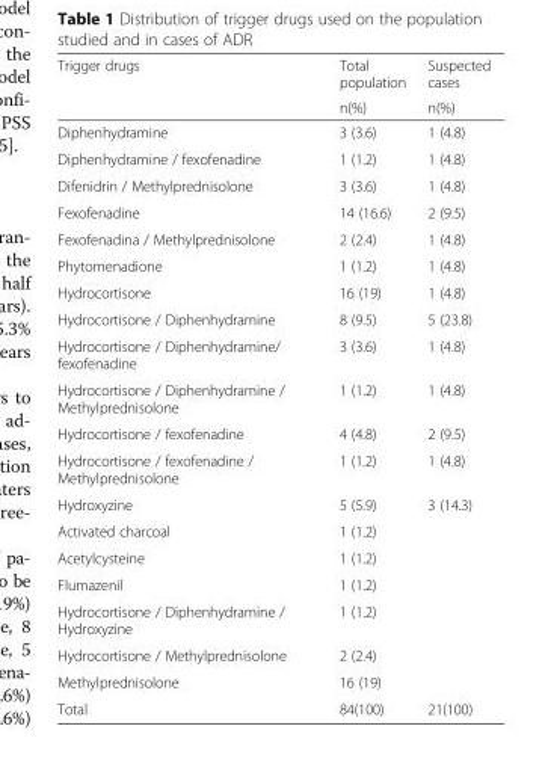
<table><thead><tr><td rowspan="2">Trigger drugs</td><td rowspan="2">Total population n(%)</td><td rowspan="2">Suspected cases n(%)</td></tr><tr></tr></thead><tbody><tr><td>Diphenhydramine</td><td>3 (3.6)</td><td>1 (4.8)</td></tr><tr><td>Diphenhydramine / fexofenadine</td><td>1 (1.2)</td><td>1 (4.8)</td></tr><tr><td>Difenidrin / Methylprednisolone</td><td>3 (3.6)</td><td>1 (4.8)</td></tr><tr><td>Fexofenadine</td><td>14 (16.6)</td><td>2 (9.5)</td></tr><tr><td>Fexofenadina / Methylprednisolone</td><td>2 (2.4)</td><td>1 (4.8)</td></tr><tr><td>Phytomenadione</td><td>1 (1.2)</td><td>1 (4.8)</td></tr><tr><td>Hydrocortisone</td><td>16 (19)</td><td>1 (4.8)</td></tr><tr><td>Hydrocortisone / Diphenhydramine</td><td>8 (9.5)</td><td>5 (23.8)</td></tr><tr><td>Hydrocortisone / Diphenhydramine/ fexofenadine</td><td>3 (3.6)</td><td>1 (4.8)</td></tr><tr><td>Hydrocortisone / Diphenhydramine / Methylprednisolone</td><td>1 (1.2)</td><td>1 (4.8)</td></tr><tr><td>Hydrocortisone / fexofenadine</td><td>4 (4.8)</td><td>2 (9.5)</td></tr><tr><td>Hydrocortisone / fexofenadine / Methylprednisolone</td><td>1 (1.2)</td><td>1 (4.8)</td></tr><tr><td>Hydroxyzine</td><td>5 (5.9)</td><td>3 (14.3)</td></tr><tr><td>Activated charcoal</td><td>1 (1.2)</td><td></td></tr><tr><td>Acetylcysteine</td><td>1 (1.2)</td><td></td></tr><tr><td>Flumazenil</td><td>1 (1.2)</td><td></td></tr><tr><td>Hydrocortisone / Diphenhydramine / Hydroxyzine</td><td>1 (1.2)</td><td></td></tr><tr><td>Hydrocortisone / Methylprednisolone</td><td>2 (2.4)</td><td></td></tr><tr><td>Methylprednisolone</td><td>16 (19)</td><td></td></tr><tr><td>Total</td><td>84(100)</td><td>21(100)</td></tr></tbody></table>